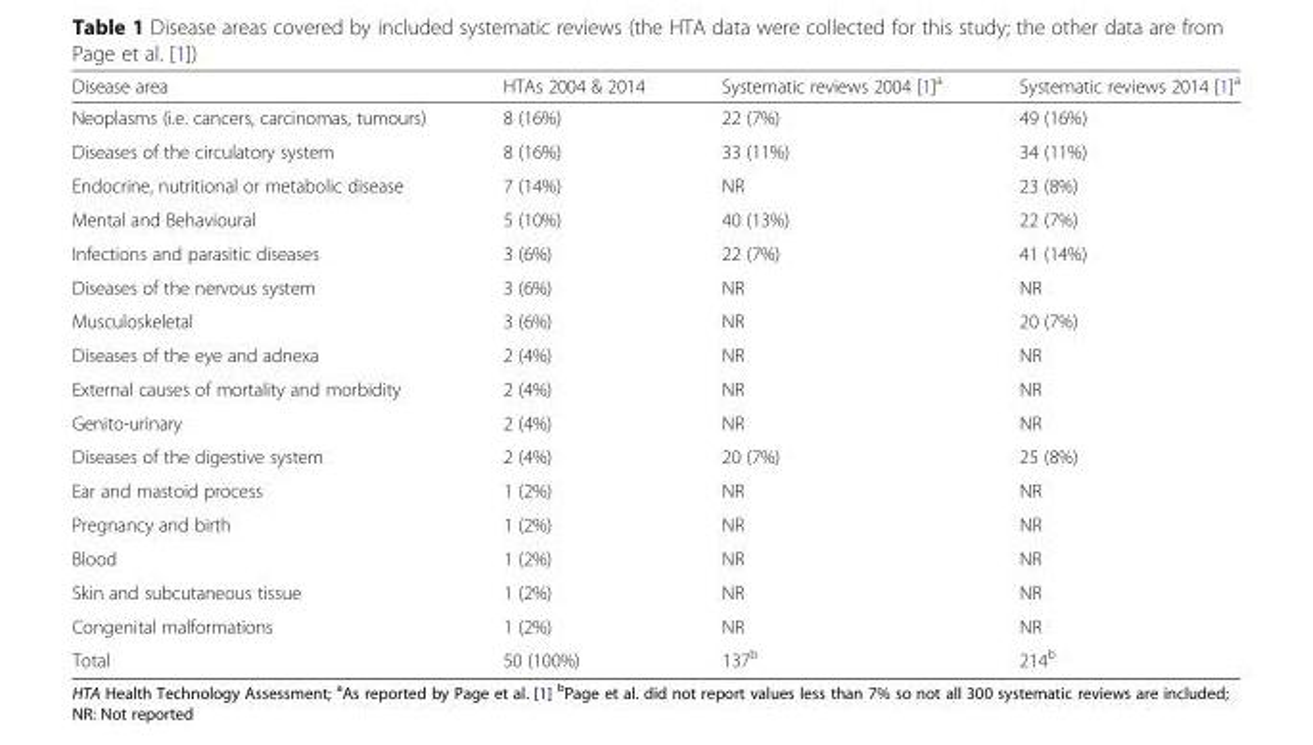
<table><thead><tr><td>Disease area</td><td>HTAs 2004 &amp; 2014</td><td>Systematic reviews 2004 [1]<sup>a</sup></td><td>Systematic reviews 2014 [1]<sup>a</sup></td></tr></thead><tbody><tr><td>Neoplasms (i.e. cancers, carcinomas, tumours)</td><td>8 (16%)</td><td>22 (7%)</td><td>49 (16%)</td></tr><tr><td>Diseases of the circulatory system</td><td>8 (16%)</td><td>33 (11%)</td><td>34 (11%)</td></tr><tr><td>Endocrine, nutritional or metabolic disease</td><td>7 (14%)</td><td>NR</td><td>23 (8%)</td></tr><tr><td>Mental and Behavioural</td><td>5 (10%)</td><td>40 (13%)</td><td>22 (7%)</td></tr><tr><td>Infections and parasitic diseases</td><td>3 (6%)</td><td>22 (7%)</td><td>41 (14%)</td></tr><tr><td>Diseases of the nervous system</td><td>3 (6%)</td><td>NR</td><td>NR</td></tr><tr><td>Musculoskeletal</td><td>3 (6%)</td><td>NR</td><td>20 (7%)</td></tr><tr><td>Diseases of the eye and adnexa</td><td>2 (4%)</td><td>NR</td><td>NR</td></tr><tr><td>External causes of mortality and morbidity</td><td>2 (4%)</td><td>NR</td><td>NR</td></tr><tr><td>Genito-urinary</td><td>2 (4%)</td><td>NR</td><td>NR</td></tr><tr><td>Diseases of the digestive system</td><td>2 (4%)</td><td>20 (7%)</td><td>25 (8%)</td></tr><tr><td>Ear and mastoid process</td><td>1 (2%)</td><td>NR</td><td>NR</td></tr><tr><td>Pregnancy and birth</td><td>1 (2%)</td><td>NR</td><td>NR</td></tr><tr><td>Blood</td><td>1 (2%)</td><td>NR</td><td>NR</td></tr><tr><td>Skin and subcutaneous tissue</td><td>1 (2%)</td><td>NR</td><td>NR</td></tr><tr><td>Congenital malformations</td><td>1 (2%)</td><td>NR</td><td>NR</td></tr><tr><td>Total</td><td>50 (100%)</td><td>137<sup>b</sup></td><td>214<sup>b</sup></td></tr></tbody></table>